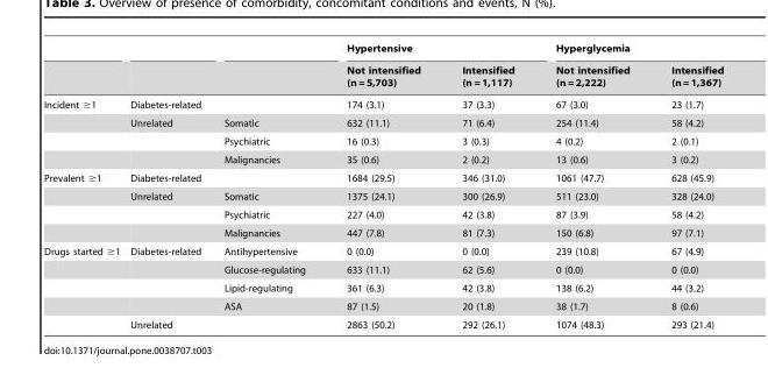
<table><thead><tr><td rowspan="2"></td><td rowspan="2"></td><td rowspan="2"></td><td colspan="2">Hypertensive</td><td colspan="2">Hyperglycemia</td></tr><tr><td>Not intensified (n = 5,703)</td><td>Intensified (n = 1,117)</td><td>Not intensified (n = 2,222)</td><td>Intensified (n = 1,367)</td></tr></thead><tbody><tr><td rowspan="4">Incident ≥1</td><td>Diabetes-related</td><td></td><td>174 (3.1)</td><td>37 (3.3)</td><td>67 (3.0)</td><td>23 (1.7)</td></tr><tr><td>Unrelated</td><td>Somatic</td><td>632 (11.1)</td><td>71 (6.4)</td><td>254 (11.4)</td><td>58 (4.2)</td></tr><tr><td></td><td>Psychiatric</td><td>16 (0.3)</td><td>3 (0.3)</td><td>4 (0.2)</td><td>2 (0.1)</td></tr><tr><td></td><td>Malignancies</td><td>35 (0.6)</td><td>2 (0.2)</td><td>13 (0.6)</td><td>3 (0.2)</td></tr><tr><td rowspan="4">Prevalent ≥1</td><td>Diabetes-related</td><td></td><td>1684 (29.5)</td><td>346 (31.0)</td><td>1061 (47.7)</td><td>628 (45.9)</td></tr><tr><td>Unrelated</td><td>Somatic</td><td>1375 (24.1)</td><td>300 (26.9)</td><td>511 (23.0)</td><td>328 (24.0)</td></tr><tr><td></td><td>Psychiatric</td><td>227 (4.0)</td><td>42 (3.8)</td><td>87 (3.9)</td><td>58 (4.2)</td></tr><tr><td></td><td>Malignancies</td><td>447 (7.8)</td><td>81 (7.3)</td><td>150 (6.8)</td><td>97 (7.1)</td></tr><tr><td rowspan="5">Drugs started ≥1</td><td>Diabetes-related</td><td>Antihypertensive</td><td>0 (0.0)</td><td>0 (0.0)</td><td>239 (10.8)</td><td>67 (4.9)</td></tr><tr><td></td><td>Glucose-regulating</td><td>633 (11.1)</td><td>62 (5.6)</td><td>0 (0.0)</td><td>0 (0.0)</td></tr><tr><td></td><td>Lipid-regulating</td><td>361 (6.3)</td><td>42 (3.8)</td><td>138 (6.2)</td><td>44 (3.2)</td></tr><tr><td></td><td>ASA</td><td>87 (1.5)</td><td>20 (1.8)</td><td>38 (1.7)</td><td>8 (0.6)</td></tr><tr><td>Unrelated</td><td></td><td>2863 (50.2)</td><td>292 (26.1)</td><td>1074 (48.3)</td><td>293 (21.4)</td></tr></tbody></table>